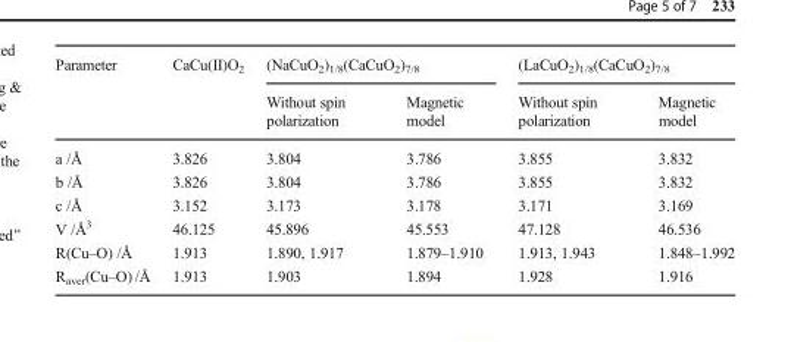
<table><thead><tr><td rowspan="2">Parameter</td><td rowspan="2">CaCu(II)O<sub>2</sub></td><td colspan="2">(NaCuO<sub>2</sub>)<sub>1/8</sub>(CaCuO<sub>2</sub>)<sub>7/8</sub></td><td colspan="2">(LaCuO<sub>2</sub>)<sub>1/8</sub>(CaCuO<sub>2</sub>)<sub>7/8</sub></td></tr><tr><td>Without spin polarization</td><td>Magnetic model</td><td>Without spin polarization</td><td>Magnetic model</td></tr></thead><tbody><tr><td>a /Å</td><td>3.826</td><td>3.804</td><td>3.786</td><td>3.855</td><td>3.832</td></tr><tr><td>b /Å</td><td>3.826</td><td>3.804</td><td>3.786</td><td>3.855</td><td>3.832</td></tr><tr><td>c /Å</td><td>3.152</td><td>3.173</td><td>3.178</td><td>3.171</td><td>3.169</td></tr><tr><td>V /Å<sup>3</sup></td><td>46.125</td><td>45.896</td><td>45.553</td><td>47.128</td><td>46.536</td></tr><tr><td>R(Cu–O) /Å</td><td>1.913</td><td>1.890, 1.917</td><td>1.879–1.910</td><td>1.913, 1.943</td><td>1.848–1.992</td></tr><tr><td>R<sub>aver</sub>(Cu–O) /Å</td><td>1.913</td><td>1.903</td><td>1.894</td><td>1.928</td><td>1.916</td></tr></tbody></table>